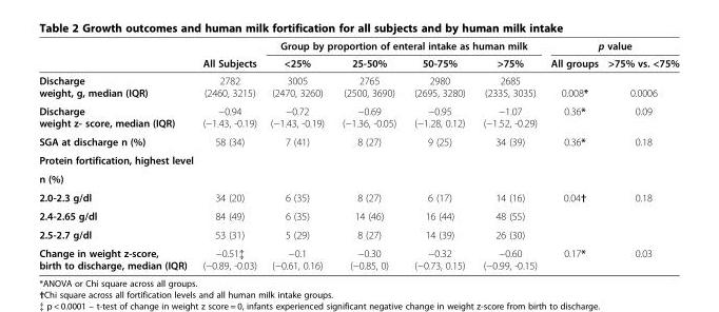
<table><thead><tr><td rowspan="2"></td><td rowspan="2">All Subjects</td><td colspan="4">Group by proportion of enteral intake as human milk</td><td colspan="2">p value</td></tr><tr><td>&lt;25%</td><td>25-50%</td><td>50-75%</td><td>&gt;75%</td><td>All groups</td><td>&gt;75% vs. &lt;75%</td></tr></thead><tbody><tr><td>Discharge weight, g, median (IQR)</td><td>2782 (2460, 3215)</td><td>3005 (2470, 3260)</td><td>2765 (2500, 3690)</td><td>2980 (2695, 3280)</td><td>2685 (2335, 3035)</td><td>0.008*</td><td>0.0006</td></tr><tr><td>Discharge weight z- score, median (IQR)</td><td>−0.94 (−1.43, -0.19)</td><td>−0.72 (−1.43, -0.19)</td><td>−0.69 (−1.36, -0.05)</td><td>−0.95 (−1.28, 0.12)</td><td>−1.07 (−1.52, -0.29)</td><td>0.36*</td><td>0.09</td></tr><tr><td>SGA at discharge n (%)</td><td>58 (34)</td><td>7 (41)</td><td>8 (27)</td><td>9 (25)</td><td>34 (39)</td><td>0.36*</td><td>0.18</td></tr><tr><td colspan="8">Protein fortification, highest level</td></tr><tr><td colspan="8">n (%)</td></tr><tr><td>2.0-2.3 g/dl</td><td>34 (20)</td><td>6 (35)</td><td>8 (27)</td><td>6 (17)</td><td>14 (16)</td><td>0.04†</td><td>0.18</td></tr><tr><td>2.4-2.65 g/dl</td><td>84 (49)</td><td>6 (35)</td><td>14 (46)</td><td>16 (44)</td><td>48 (55)</td><td></td><td></td></tr><tr><td>2.5-2.7 g/dl</td><td>53 (31)</td><td>5 (29)</td><td>8 (27)</td><td>14 (39)</td><td>26 (30)</td><td></td><td></td></tr><tr><td>Change in weight z-score, birth to discharge, median (IQR)</td><td>−0.51‡ (−0.89, -0.03)</td><td>−0.1 (−0.61, 0.16)</td><td>−0.30 (−0.85, 0)</td><td>−0.32 (−0.73, 0.15)</td><td>−0.60 (−0.99, -0.15)</td><td>0.17*</td><td>0.03</td></tr></tbody></table>